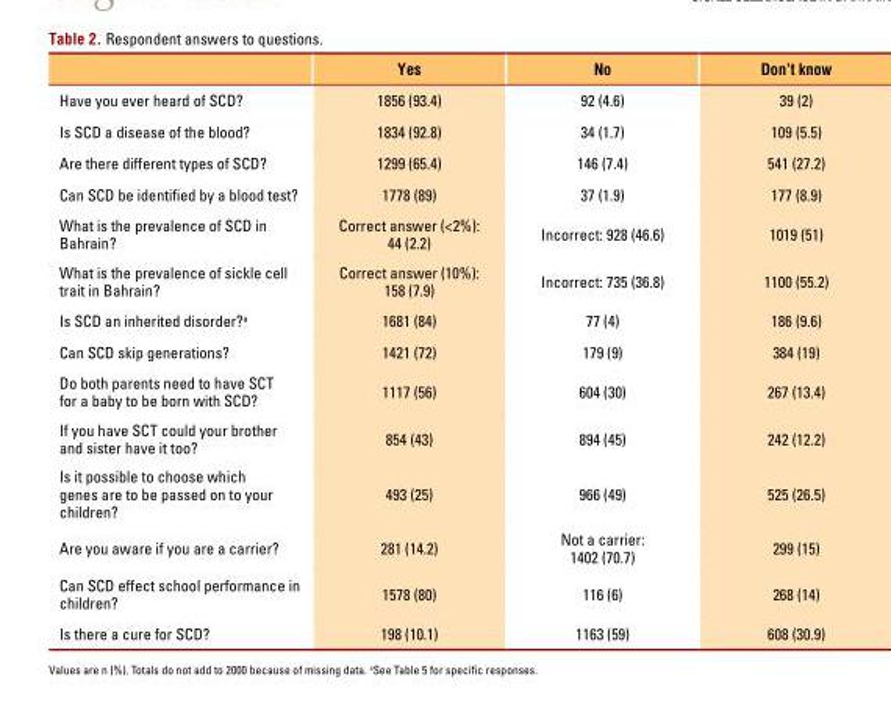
<table><thead><tr><td></td><td>Yes</td><td>No</td><td>Don’t know</td></tr></thead><tbody><tr><td>Have you ever heard of SCD?</td><td>1856 (93.4)</td><td>92 (4.6)</td><td>39 (2)</td></tr><tr><td>Is SCD a disease of the blood?</td><td>1834 (92.8)</td><td>34 (1.7)</td><td>109 (5.5)</td></tr><tr><td>Are there different types of SCD?</td><td>1299 (65.4)</td><td>146 (7.4)</td><td>541 (27.2)</td></tr><tr><td>Can SCD be identified by a blood test?</td><td>1778 (89)</td><td>37 (1.9)</td><td>177 (8.9)</td></tr><tr><td>What is the prevalence of SCD in Bahrain?</td><td>Correct answer (&lt;2%): 44 (2.2)</td><td>Incorrect: 928 (46.6)</td><td>1019 (51)</td></tr><tr><td>What is the prevalence of sickle cell trait in Bahrain?</td><td>Correct answer (10%): 158 (7.9)</td><td>Incorrect: 735 (36.8)</td><td>1100 (55.2)</td></tr><tr><td>Is SCD an inherited disorder?<sup>a</sup></td><td>1681 (84)</td><td>77 (4)</td><td>186 (9.6)</td></tr><tr><td>Can SCD skip generations?</td><td>1421 (72)</td><td>179 (9)</td><td>384 (19)</td></tr><tr><td>Do both parents need to have SCT for a baby to be born with SCD?</td><td>1117 (56)</td><td>604 (30)</td><td>267 (13.4)</td></tr><tr><td>If you have SCT could your brother and sister have it too?</td><td>854 (43)</td><td>894 (45)</td><td>242 (12.2)</td></tr><tr><td>Is it possible to choose which genes are to be passed on to your children?</td><td>493 (25)</td><td>966 (49)</td><td>525 (26.5)</td></tr><tr><td>Are you aware if you are a carrier?</td><td>281 (14.2)</td><td>Not a carrier: 1402 (70.7)</td><td>299 (15)</td></tr><tr><td>Can SCD effect school performance in children?</td><td>1578 (80)</td><td>116 (6)</td><td>268 (14)</td></tr><tr><td>Is there a cure for SCD?</td><td>198 (10.1)</td><td>1163 (59)</td><td>608 (30.9)</td></tr></tbody></table>